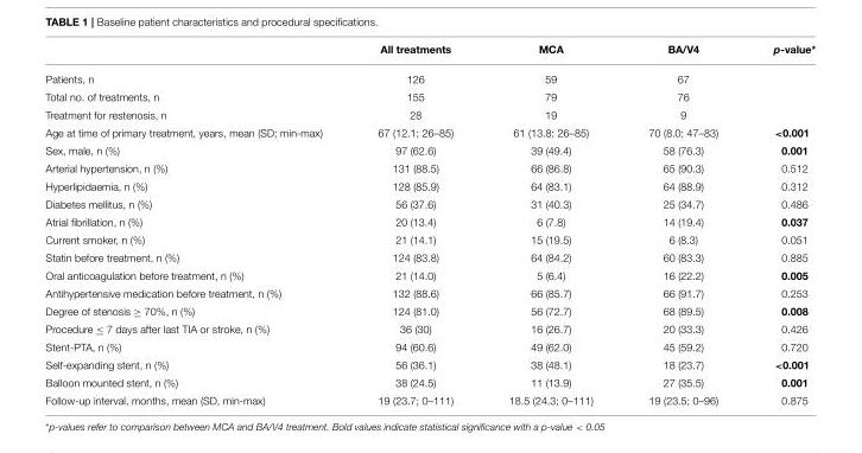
<table><thead><tr><td></td><td>All treatments</td><td>MCA</td><td>BA/V4</td><td>p-value*</td></tr></thead><tbody><tr><td>Patients, n</td><td>126</td><td>59</td><td>67</td><td></td></tr><tr><td>Total no. of treatments, n</td><td>155</td><td>79</td><td>76</td><td></td></tr><tr><td>Treatment for restenosis, n</td><td>28</td><td>19</td><td>9</td><td></td></tr><tr><td>Age at time of primary treatment, years, mean (SD; min-max)</td><td>67 (12.1; 26–85)</td><td>61 (13.8; 26–85)</td><td>70 (8.0; 47–83)</td><td>&lt;0.001</td></tr><tr><td>Sex, male, n (%)</td><td>97 (62.6)</td><td>39 (49.4)</td><td>58 (76.3)</td><td>0.001</td></tr><tr><td>Arterial hypertension, n (%)</td><td>131 (88.5)</td><td>66 (86.8)</td><td>65 (90.3)</td><td>0.512</td></tr><tr><td>Hyperlipidaemia, n (%)</td><td>128 (85.9)</td><td>64 (83.1)</td><td>64 (88.9)</td><td>0.312</td></tr><tr><td>Diabetes mellitus, n (%)</td><td>56 (37.6)</td><td>31 (40.3)</td><td>25 (34.7)</td><td>0.486</td></tr><tr><td>Atrial fibrillation, n (%)</td><td>20 (13.4)</td><td>6 (7.8)</td><td>14 (19.4)</td><td>0.037</td></tr><tr><td>Current smoker, n (%)</td><td>21 (14.1)</td><td>15 (19.5)</td><td>6 (8.3)</td><td>0.051</td></tr><tr><td>Statin before treatment, n (%)</td><td>124 (83.8)</td><td>64 (84.2)</td><td>60 (83.3)</td><td>0.885</td></tr><tr><td>Oral anticoagulation before treatment, n (%)</td><td>21 (14.0)</td><td>5 (6.4)</td><td>16 (22.2)</td><td>0.005</td></tr><tr><td>Antihypertensive medication before treatment, n (%)</td><td>132 (88.6)</td><td>66 (85.7)</td><td>66 (91.7)</td><td>0.253</td></tr><tr><td>Degree of stenosis ≥ 70%, n (%)</td><td>124 (81.0)</td><td>56 (72.7)</td><td>68 (89.5)</td><td>0.008</td></tr><tr><td>Procedure ≤ 7 days after last TIA or stroke, n (%)</td><td>36 (30)</td><td>16 (26.7)</td><td>20 (33.3)</td><td>0.426</td></tr><tr><td>Stent-PTA, n (%)</td><td>94 (60.6)</td><td>49 (62.0)</td><td>45 (59.2)</td><td>0.720</td></tr><tr><td>Self-expanding stent, n (%)</td><td>56 (36.1)</td><td>38 (48.1)</td><td>18 (23.7)</td><td>&lt;0.001</td></tr><tr><td>Balloon mounted stent, n (%)</td><td>38 (24.5)</td><td>11 (13.9)</td><td>27 (35.5)</td><td>0.001</td></tr><tr><td>Follow-up interval, months, mean (SD, min-max)</td><td>19 (23.7; 0–111)</td><td>18.5 (24.3; 0–111)</td><td>19 (23.5; 0–96)</td><td>0.875</td></tr></tbody></table>